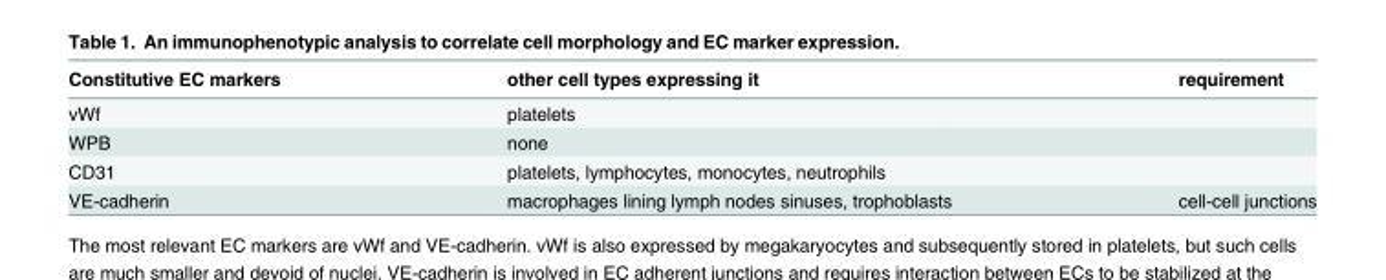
<table><thead><tr><td>Constitutive EC markers</td><td>other cell types expressing it</td><td>requirement</td></tr></thead><tbody><tr><td>vWf</td><td>platelets</td><td></td></tr><tr><td>WPB</td><td>none</td><td></td></tr><tr><td>CD31</td><td>platelets, lymphocytes, monocytes, neutrophils</td><td></td></tr><tr><td>VE-cadherin</td><td>macrophages lining lymph nodes sinuses, trophoblasts</td><td>cell-cell junctions</td></tr></tbody></table>